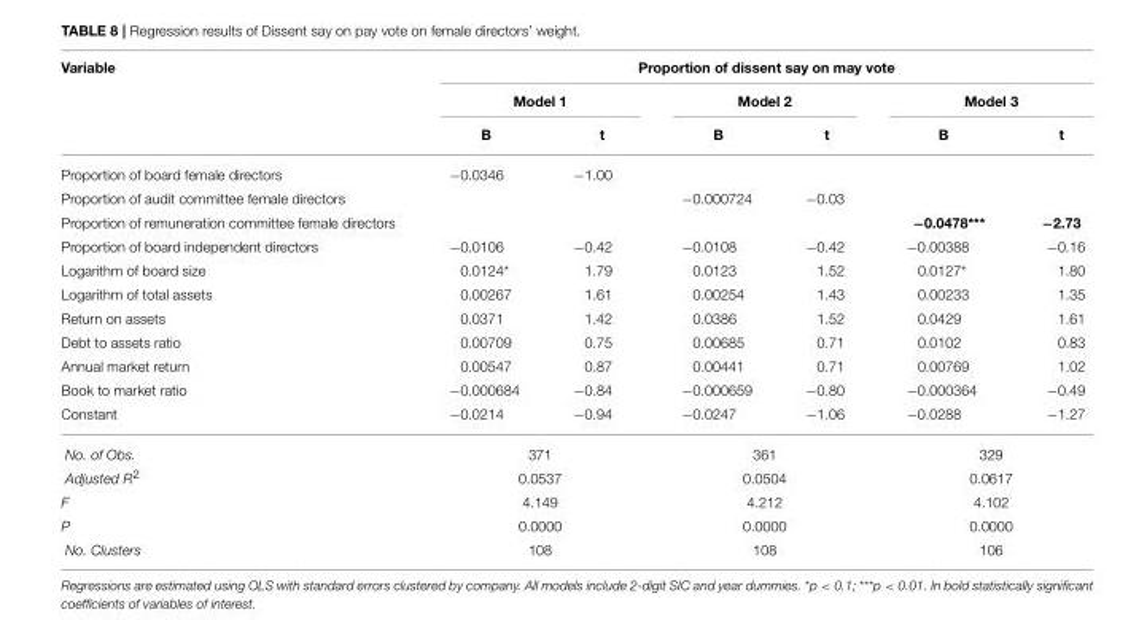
<table><thead><tr><td rowspan="3">Variable</td><td colspan="6">Proportion of dissent say on may vote</td></tr><tr><td colspan="2">Model 1</td><td colspan="2">Model 2</td><td colspan="2">Model 3</td></tr><tr><td>B</td><td>t</td><td>B</td><td>t</td><td>B</td><td>t</td></tr></thead><tbody><tr><td>Proportion of board female directors</td><td>−0.0346</td><td>−1.00</td><td></td><td></td><td></td><td></td></tr><tr><td>Proportion of audit committee female directors</td><td></td><td></td><td>−0.000724</td><td>−0.03</td><td></td><td></td></tr><tr><td>Proportion of remuneration committee female directors</td><td></td><td></td><td></td><td></td><td>−0.0478***</td><td>−2.73</td></tr><tr><td>Proportion of board independent directors</td><td>−0.0106</td><td>−0.42</td><td>−0.0108</td><td>−0.42</td><td>−0.00388</td><td>−0.16</td></tr><tr><td>Logarithm of board size</td><td>0.0124*</td><td>1.79</td><td>0.0123</td><td>1.52</td><td>0.0127*</td><td>1.80</td></tr><tr><td>Logarithm of total assets</td><td>0.00267</td><td>1.61</td><td>0.00254</td><td>1.43</td><td>0.00233</td><td>1.35</td></tr><tr><td>Return on assets</td><td>0.0371</td><td>1.42</td><td>0.0386</td><td>1.52</td><td>0.0429</td><td>1.61</td></tr><tr><td>Debt to assets ratio</td><td>0.00709</td><td>0.75</td><td>0.00685</td><td>0.71</td><td>0.0102</td><td>0.83</td></tr><tr><td>Annual market return</td><td>0.00547</td><td>0.87</td><td>0.00441</td><td>0.71</td><td>0.00769</td><td>1.02</td></tr><tr><td>Book to market ratio</td><td>−0.000684</td><td>−0.84</td><td>−0.000659</td><td>−0.80</td><td>−0.000364</td><td>−0.49</td></tr><tr><td>Constant</td><td>−0.0214</td><td>−0.94</td><td>−0.0247</td><td>−1.06</td><td>−0.0288</td><td>−1.27</td></tr><tr><td>No. of Obs.</td><td colspan="2">371</td><td colspan="2">361</td><td colspan="2">329</td></tr><tr><td>Adjusted R<sup>2</sup></td><td colspan="2">0.0537</td><td colspan="2">0.0504</td><td colspan="2">0.0617</td></tr><tr><td>F</td><td colspan="2">4.149</td><td colspan="2">4.212</td><td colspan="2">4.102</td></tr><tr><td>P</td><td colspan="2">0.0000</td><td colspan="2">0.0000</td><td colspan="2">0.0000</td></tr><tr><td>No. Clusters</td><td colspan="2">108</td><td colspan="2">108</td><td colspan="2">106</td></tr></tbody></table>